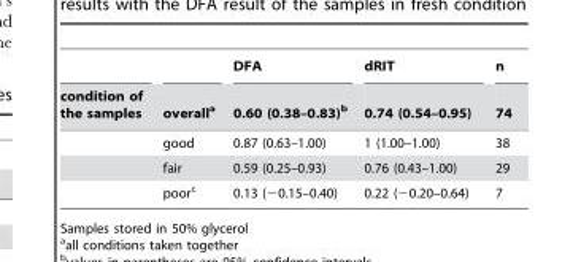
<table><thead><tr><td rowspan="2">condition of the samples</td><td rowspan="2">overall<sup>a</sup></td><td rowspan="2">DFA 0.60 (0.38–0.83)<sup>b</sup></td><td rowspan="2">dRIT 0.74 (0.54–0.95)</td><td rowspan="2">n 74</td></tr><tr></tr></thead><tbody><tr><td></td><td>good</td><td>0.87 (0.63–1.00)</td><td>1 (1.00–1.00)</td><td>38</td></tr><tr><td></td><td>fair</td><td>0.59 (0.25–0.93)</td><td>0.76 (0.43–1.00)</td><td>29</td></tr><tr><td></td><td>poor<sup>c</sup></td><td>0.13 (−0.15–0.40)</td><td>0.22 (−0.20–0.64)</td><td>7</td></tr></tbody></table>